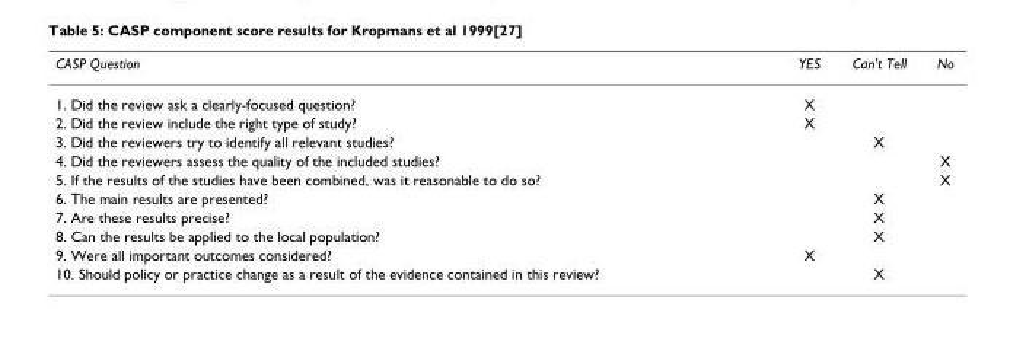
<table><thead><tr><td>CASP Question</td><td>YES</td><td>Can&#x27;t Tell</td><td>No</td></tr></thead><tbody><tr><td>1. Did the review ask a clearly-focused question?</td><td>X</td><td></td><td></td></tr><tr><td>2. Did the review include the right type of study?</td><td>X</td><td></td><td></td></tr><tr><td>3. Did the reviewers try to identify all relevant studies?</td><td></td><td>X</td><td></td></tr><tr><td>4. Did the reviewers assess the quality of the included studies?</td><td></td><td></td><td>X</td></tr><tr><td>5. If the results of the studies have been combined, was it reasonable to do so?</td><td></td><td></td><td>X</td></tr><tr><td>6. The main results are presented?</td><td></td><td>X</td><td></td></tr><tr><td>7. Are these results precise?</td><td></td><td>X</td><td></td></tr><tr><td>8. Can the results be applied to the local population?</td><td></td><td>X</td><td></td></tr><tr><td>9. Were all important outcomes considered?</td><td>X</td><td></td><td></td></tr><tr><td>10. Should policy or practice change as a result of the evidence contained in this review?</td><td></td><td>X</td><td></td></tr></tbody></table>